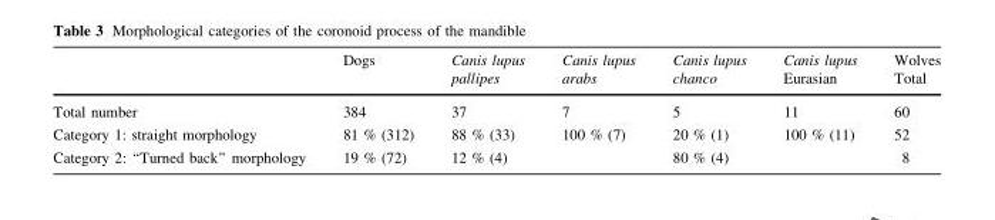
<table><thead><tr><td rowspan="2"></td><td rowspan="2">Dogs</td><td rowspan="2">Canis lupus pallipes</td><td rowspan="2">Canis lupus arabs</td><td rowspan="2">Canis lupus chanco</td><td rowspan="2">Canis lupus Eurasian</td><td rowspan="2">Wolves Total</td></tr><tr></tr></thead><tbody><tr><td>Total number</td><td>384</td><td>37</td><td>7</td><td>5</td><td>11</td><td>60</td></tr><tr><td>Category 1: straight morphology</td><td>81 % (312)</td><td>88 % (33)</td><td>100 % (7)</td><td>20 % (1)</td><td>100 % (11)</td><td>52</td></tr><tr><td>Category 2: ‘‘Turned back’’ morphology</td><td>19 % (72)</td><td>12 % (4)</td><td></td><td>80 % (4)</td><td></td><td>8</td></tr></tbody></table>